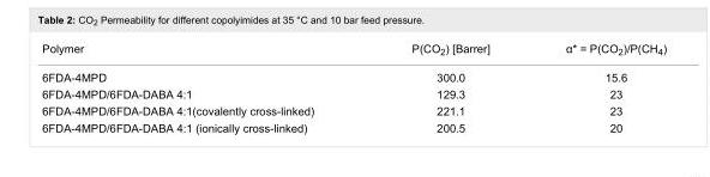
<table><tbody><tr><td>Polymer</td><td>P(CO<sub>2</sub>) [Barrer]</td><td>α* = P(CO<sub>2</sub>)/P(CH<sub>4</sub>)</td></tr><tr><td>6FDA-4MPD</td><td>300.0</td><td>15.6</td></tr><tr><td>6FDA-4MPD/6FDA-DABA 4:1</td><td>129.3</td><td>23</td></tr><tr><td>6FDA-4MPD/6FDA-DABA 4:1(covalently cross-linked)</td><td>221.1</td><td>23</td></tr><tr><td>6FDA-4MPD/6FDA-DABA 4:1 (ionically cross-linked)</td><td>200.5</td><td>20</td></tr></tbody></table>